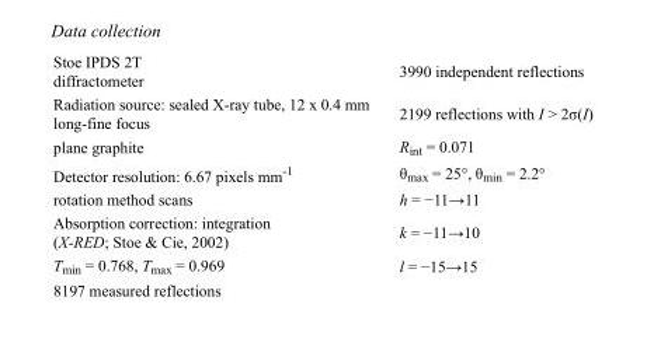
<table><tbody><tr><td>Stoe IPDS 2T diffractometer</td><td>3990 independent reflections</td></tr><tr><td>Radiation source: sealed X-ray tube, 12 x 0.4 mm long-fine focus</td><td>2199 reflections with I &gt; 2σ(I)</td></tr><tr><td>plane graphite</td><td>R<sub>int</sub> = 0.071</td></tr><tr><td>Detector resolution: 6.67 pixels mm<sup>-1</sup></td><td>θ<sub>max</sub> = 25°, θ<sub>min</sub> = 2.2°</td></tr><tr><td>rotation method scans</td><td>h = −11→11</td></tr><tr><td>Absorption correction: integration (X-RED; Stoe &amp; Cie, 2002)</td><td>k = −11→10</td></tr><tr><td>T<sub>min</sub> = 0.768, T<sub>max</sub> = 0.969</td><td>l = −15→15</td></tr><tr><td>8197 measured reflections</td><td></td></tr></tbody></table>